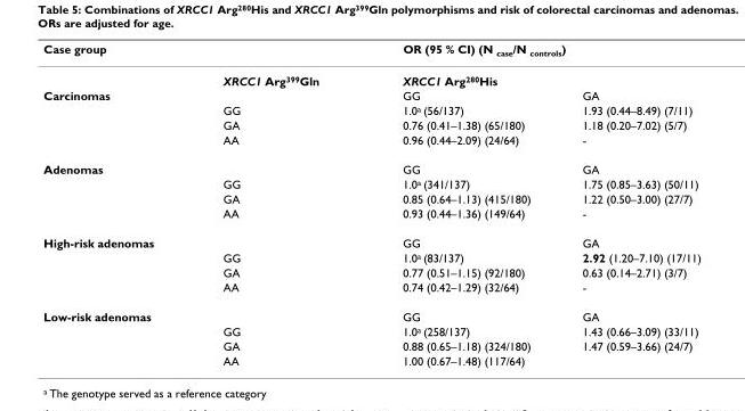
<table><thead><tr><td rowspan="2">Case group</td><td rowspan="2">XRCC1 Arg399Gln</td><td colspan="2">OR (95 % CI) (N case/N controls)</td></tr><tr><td>XRCC1 Arg280His</td><td></td></tr></thead><tbody><tr><td rowspan="4">Carcinomas</td><td></td><td>GG</td><td>GA</td></tr><tr><td>GG</td><td>1.0a (56/137)</td><td>1.93 (0.44–8.49) (7/11)</td></tr><tr><td>GA</td><td>0.76 (0.41–1.38) (65/180)</td><td>1.18 (0.20–7.02) (5/7)</td></tr><tr><td>AA</td><td>0.96 (0.44–2.09) (24/64)</td><td>-</td></tr><tr><td rowspan="4">Adenomas</td><td></td><td>GG</td><td>GA</td></tr><tr><td>GG</td><td>1.0a (341/137)</td><td>1.75 (0.85–3.63) (50/11)</td></tr><tr><td>GA</td><td>0.85 (0.64–1.13) (415/180)</td><td>1.22 (0.50–3.00) (27/7)</td></tr><tr><td>AA</td><td>0.93 (0.44–1.36) (149/64)</td><td>-</td></tr><tr><td rowspan="4">High-risk adenomas</td><td></td><td>GG</td><td>GA</td></tr><tr><td>GG</td><td>1.0a (83/137)</td><td>2.92 (1.20–7.10) (17/11)</td></tr><tr><td>GA</td><td>0.77 (0.51–1.15) (92/180)</td><td>0.63 (0.14–2.71) (3/7)</td></tr><tr><td>AA</td><td>0.74 (0.42–1.29) (32/64)</td><td>-</td></tr><tr><td rowspan="4">Low-risk adenomas</td><td></td><td>GG</td><td>GA</td></tr><tr><td>GG</td><td>1.0a (258/137)</td><td>1.43 (0.66–3.09) (33/11)</td></tr><tr><td>GA</td><td>0.88 (0.65–1.18) (324/180)</td><td>1.47 (0.59–3.66) (24/7)</td></tr><tr><td>AA</td><td>1.00 (0.67–1.48) (117/64)</td><td></td></tr></tbody></table>